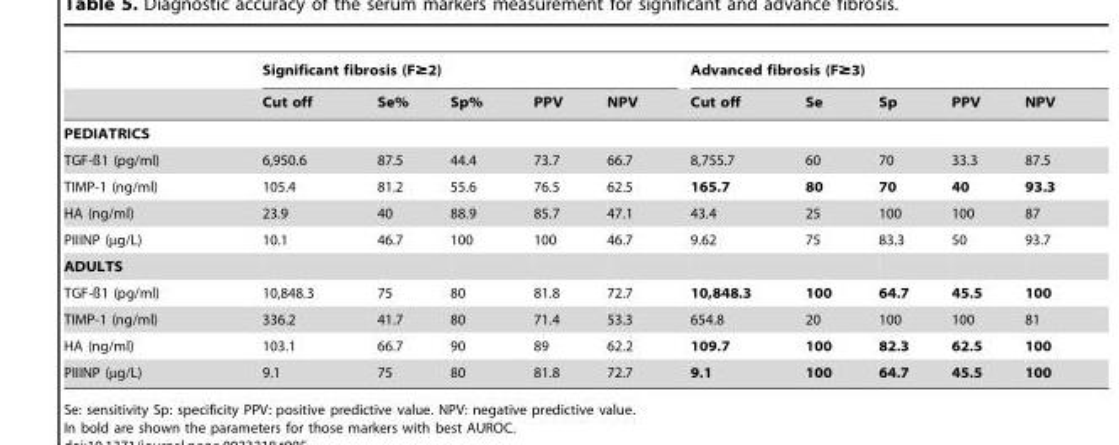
<table><thead><tr><td rowspan="2"></td><td colspan="5">Significant fibrosis (F≥2)</td><td colspan="5">Advanced fibrosis (F≥3)</td></tr><tr><td>Cut off</td><td>Se%</td><td>Sp%</td><td>PPV</td><td>NPV</td><td>Cut off</td><td>Se</td><td>Sp</td><td>PPV</td><td>NPV</td></tr></thead><tbody><tr><td colspan="11">PEDIATRICS</td></tr><tr><td>TGF-ß1 (pg/ml)</td><td>6,950.6</td><td>87.5</td><td>44.4</td><td>73.7</td><td>66.7</td><td>8,755.7</td><td>60</td><td>70</td><td>33.3</td><td>87.5</td></tr><tr><td>TIMP-1 (ng/ml)</td><td>105.4</td><td>81.2</td><td>55.6</td><td>76.5</td><td>62.5</td><td>165.7</td><td>80</td><td>70</td><td>40</td><td>93.3</td></tr><tr><td>HA (ng/ml)</td><td>23.9</td><td>40</td><td>88.9</td><td>85.7</td><td>47.1</td><td>43.4</td><td>25</td><td>100</td><td>100</td><td>87</td></tr><tr><td>PIIINP (µg/L)</td><td>10.1</td><td>46.7</td><td>100</td><td>100</td><td>46.7</td><td>9.62</td><td>75</td><td>83.3</td><td>50</td><td>93.7</td></tr><tr><td colspan="11">ADULTS</td></tr><tr><td>TGF-ß1 (pg/ml)</td><td>10,848.3</td><td>75</td><td>80</td><td>81.8</td><td>72.7</td><td>10,848.3</td><td>100</td><td>64.7</td><td>45.5</td><td>100</td></tr><tr><td>TIMP-1 (ng/ml)</td><td>336.2</td><td>41.7</td><td>80</td><td>71.4</td><td>53.3</td><td>654.8</td><td>20</td><td>100</td><td>100</td><td>81</td></tr><tr><td>HA (ng/ml)</td><td>103.1</td><td>66.7</td><td>90</td><td>89</td><td>62.2</td><td>109.7</td><td>100</td><td>82.3</td><td>62.5</td><td>100</td></tr><tr><td>PIIINP (µg/L)</td><td>9.1</td><td>75</td><td>80</td><td>81.8</td><td>72.7</td><td>9.1</td><td>100</td><td>64.7</td><td>45.5</td><td>100</td></tr></tbody></table>